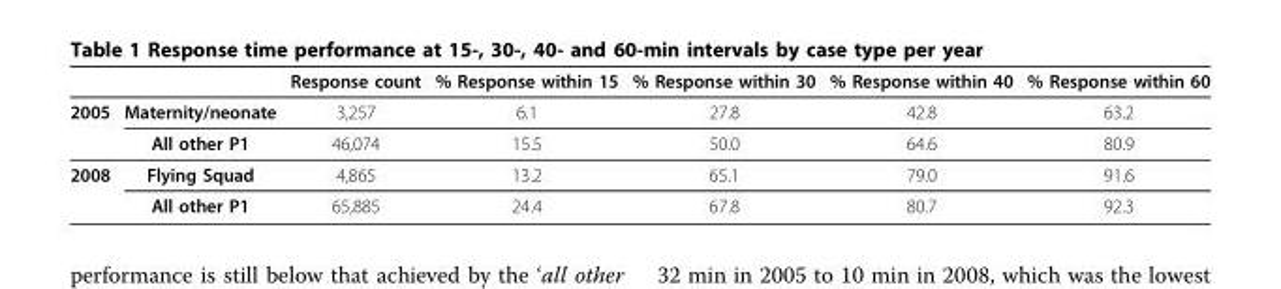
<table><thead><tr><td></td><td></td><td>Response count</td><td>% Response within 15</td><td>% Response within 30</td><td>% Response within 40</td><td>% Response within 60</td></tr></thead><tbody><tr><td rowspan="2">2005</td><td>Maternity/neonate</td><td>3,257</td><td>6.1</td><td>27.8</td><td>42.8</td><td>63.2</td></tr><tr><td>All other P1</td><td>46,074</td><td>15.5</td><td>50.0</td><td>64.6</td><td>80.9</td></tr><tr><td rowspan="2">2008</td><td>Flying Squad</td><td>4,865</td><td>13.2</td><td>65.1</td><td>79.0</td><td>91.6</td></tr><tr><td>All other P1</td><td>65,885</td><td>24.4</td><td>67.8</td><td>80.7</td><td>92.3</td></tr></tbody></table>